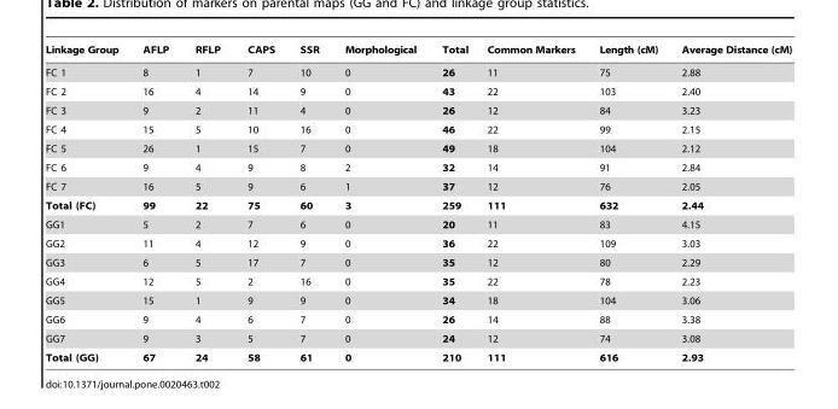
<table><thead><tr><td>Linkage Group</td><td>AFLP</td><td>RFLP</td><td>CAPS</td><td>SSR</td><td>Morphological</td><td>Total</td><td>Common Markers</td><td>Length (cM)</td><td>Average Distance (cM)</td></tr></thead><tbody><tr><td>FC 1</td><td>8</td><td>1</td><td>7</td><td>10</td><td>0</td><td>26</td><td>11</td><td>75</td><td>2.88</td></tr><tr><td>FC 2</td><td>16</td><td>4</td><td>14</td><td>9</td><td>0</td><td>43</td><td>22</td><td>103</td><td>2.40</td></tr><tr><td>FC 3</td><td>9</td><td>2</td><td>11</td><td>4</td><td>0</td><td>26</td><td>12</td><td>84</td><td>3.23</td></tr><tr><td>FC 4</td><td>15</td><td>5</td><td>10</td><td>16</td><td>0</td><td>46</td><td>22</td><td>99</td><td>2.15</td></tr><tr><td>FC 5</td><td>26</td><td>1</td><td>15</td><td>7</td><td>0</td><td>49</td><td>18</td><td>104</td><td>2.12</td></tr><tr><td>FC 6</td><td>9</td><td>4</td><td>9</td><td>8</td><td>2</td><td>32</td><td>14</td><td>91</td><td>2.84</td></tr><tr><td>FC 7</td><td>16</td><td>5</td><td>9</td><td>6</td><td>1</td><td>37</td><td>12</td><td>76</td><td>2.05</td></tr><tr><td>Total (FC)</td><td>99</td><td>22</td><td>75</td><td>60</td><td>3</td><td>259</td><td>111</td><td>632</td><td>2.44</td></tr><tr><td>GG1</td><td>5</td><td>2</td><td>7</td><td>6</td><td>0</td><td>20</td><td>11</td><td>83</td><td>4.15</td></tr><tr><td>GG2</td><td>11</td><td>4</td><td>12</td><td>9</td><td>0</td><td>36</td><td>22</td><td>109</td><td>3.03</td></tr><tr><td>GG3</td><td>6</td><td>5</td><td>17</td><td>7</td><td>0</td><td>35</td><td>12</td><td>80</td><td>2.29</td></tr><tr><td>GG4</td><td>12</td><td>5</td><td>2</td><td>16</td><td>0</td><td>35</td><td>22</td><td>78</td><td>2.23</td></tr><tr><td>GG5</td><td>15</td><td>1</td><td>9</td><td>9</td><td>0</td><td>34</td><td>18</td><td>104</td><td>3.06</td></tr><tr><td>GG6</td><td>9</td><td>4</td><td>6</td><td>7</td><td>0</td><td>26</td><td>14</td><td>88</td><td>3.38</td></tr><tr><td>GG7</td><td>9</td><td>3</td><td>5</td><td>7</td><td>0</td><td>24</td><td>12</td><td>74</td><td>3.08</td></tr><tr><td>Total (GG)</td><td>67</td><td>24</td><td>58</td><td>61</td><td>0</td><td>210</td><td>111</td><td>616</td><td>2.93</td></tr></tbody></table>